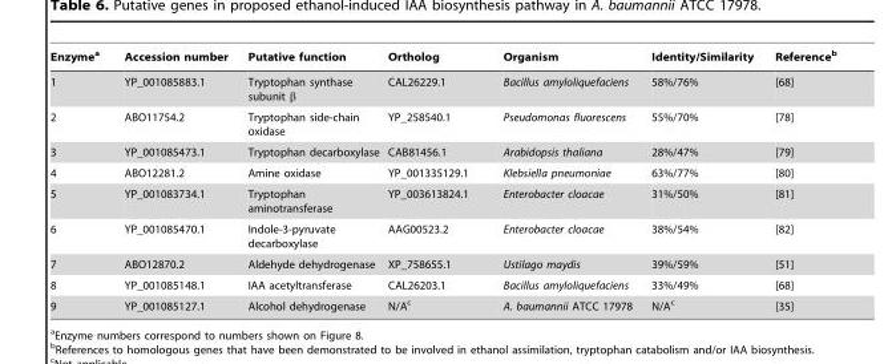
<table><thead><tr><td>Enzyme<sup>a</sup></td><td>Accession number</td><td>Putative function</td><td>Ortholog</td><td>Organism</td><td>Identity/Similarity</td><td>Reference<sup>b</sup></td></tr></thead><tbody><tr><td>1</td><td>YP_001085883.1</td><td>Tryptophan synthase subunit β</td><td>CAL26229.1</td><td>Bacillus amyloliquefaciens</td><td>58%/76%</td><td>[68]</td></tr><tr><td>2</td><td>ABO11754.2</td><td>Tryptophan side-chain oxidase</td><td>YP_258540.1</td><td>Pseudomonas fluorescens</td><td>55%/70%</td><td>[78]</td></tr><tr><td>3</td><td>YP_001085473.1</td><td>Tryptophan decarboxylase</td><td>CAB81456.1</td><td>Arabidopsis thaliana</td><td>28%/47%</td><td>[79]</td></tr><tr><td>4</td><td>ABO12281.2</td><td>Amine oxidase</td><td>YP_001335129.1</td><td>Klebsiella pneumoniae</td><td>63%/77%</td><td>[80]</td></tr><tr><td>5</td><td>YP_001083734.1</td><td>Tryptophan aminotransferase</td><td>YP_003613824.1</td><td>Enterobacter cloacae</td><td>31%/50%</td><td>[81]</td></tr><tr><td>6</td><td>YP_001085470.1</td><td>Indole-3-pyruvate decarboxylase</td><td>AAG00523.2</td><td>Enterobacter cloacae</td><td>38%/54%</td><td>[82]</td></tr><tr><td>7</td><td>ABO12870.2</td><td>Aldehyde dehydrogenase</td><td>XP_758655.1</td><td>Ustilago maydis</td><td>39%/59%</td><td>[51]</td></tr><tr><td>8</td><td>YP_001085148.1</td><td>IAA acetyltransferase</td><td>CAL26203.1</td><td>Bacillus amyloliquefaciens</td><td>33%/49%</td><td>[68]</td></tr><tr><td>9</td><td>YP_001085127.1</td><td>Alcohol dehydrogenase</td><td>N/A<sup>c</sup></td><td>A. baumannii ATCC 17978</td><td>N/A<sup>c</sup></td><td>[35]</td></tr></tbody></table>